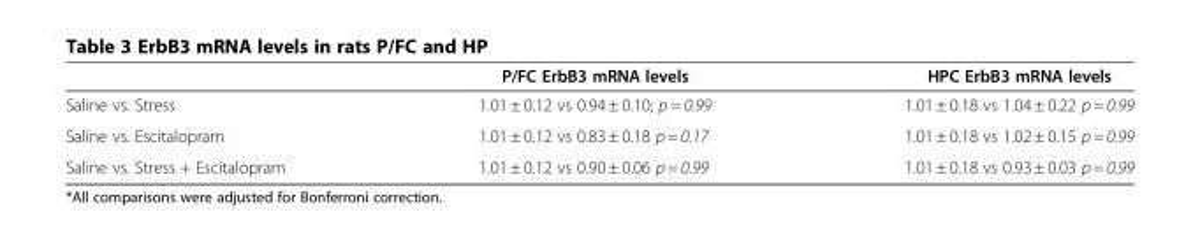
<table><thead><tr><td></td><td>P/FC ErbB3 mRNA levels</td><td>HPC ErbB3 mRNA levels</td></tr></thead><tbody><tr><td>Saline vs. Stress</td><td>1.01 ± 0.12 vs 0.94 ± 0.10; p = 0.99</td><td>1.01 ± 0.18 vs 1.04 ± 0.22 p = 0.99</td></tr><tr><td>Saline vs. Escitalopram</td><td>1.01 ± 0.12 vs 0.83 ± 0.18 p = 0.17</td><td>1.01 ± 0.18 vs 1.02 ± 0.15 p = 0.99</td></tr><tr><td>Saline vs. Stress + Escitalopram</td><td>1.01 ± 0.12 vs 0.90 ± 0.06 p = 0.99</td><td>1.01 ± 0.18 vs 0.93 ± 0.03 p = 0.99</td></tr></tbody></table>